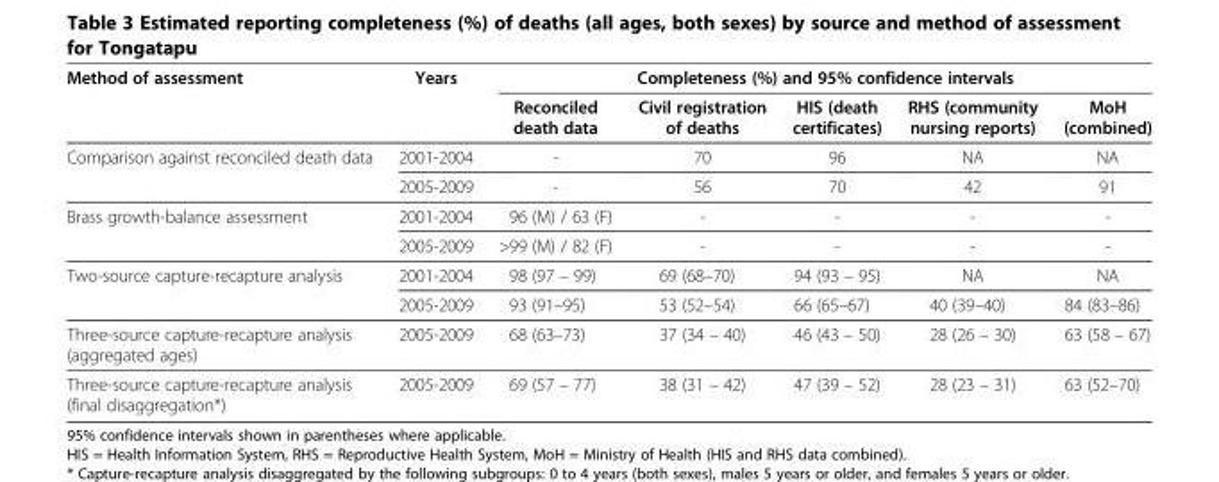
<table><thead><tr><td rowspan="2">Method of assessment</td><td rowspan="2">Years</td><td colspan="5">Completeness (%) and 95% confidence intervals</td></tr><tr><td>Reconciled death data</td><td>Civil registration of deaths</td><td>HIS (death certificates)</td><td>RHS (community nursing reports)</td><td>MoH (combined)</td></tr></thead><tbody><tr><td rowspan="2">Comparison against reconciled death data</td><td>2001-2004</td><td>-</td><td>70</td><td>96</td><td>NA</td><td>NA</td></tr><tr><td>2005-2009</td><td>-</td><td>56</td><td>70</td><td>42</td><td>91</td></tr><tr><td rowspan="2">Brass growth-balance assessment</td><td>2001-2004</td><td>96 (M) / 63 (F)</td><td>-</td><td>-</td><td>-</td><td>-</td></tr><tr><td>2005-2009</td><td>&gt;99 (M) / 82 (F)</td><td>-</td><td>-</td><td>-</td><td>-</td></tr><tr><td rowspan="2">Two-source capture-recapture analysis</td><td>2001-2004</td><td>98 (97 – 99)</td><td>69 (68–70)</td><td>94 (93 – 95)</td><td>NA</td><td>NA</td></tr><tr><td>2005-2009</td><td>93 (91–95)</td><td>53 (52–54)</td><td>66 (65–67)</td><td>40 (39–40)</td><td>84 (83–86)</td></tr><tr><td>Three-source capture-recapture analysis (aggregated ages)</td><td>2005-2009</td><td>68 (63–73)</td><td>37 (34 – 40)</td><td>46 (43 – 50)</td><td>28 (26 – 30)</td><td>63 (58 – 67)</td></tr><tr><td>Three-source capture-recapture analysis (final disaggregation*)</td><td>2005-2009</td><td>69 (57 – 77)</td><td>38 (31 – 42)</td><td>47 (39 – 52)</td><td>28 (23 – 31)</td><td>63 (52–70)</td></tr></tbody></table>